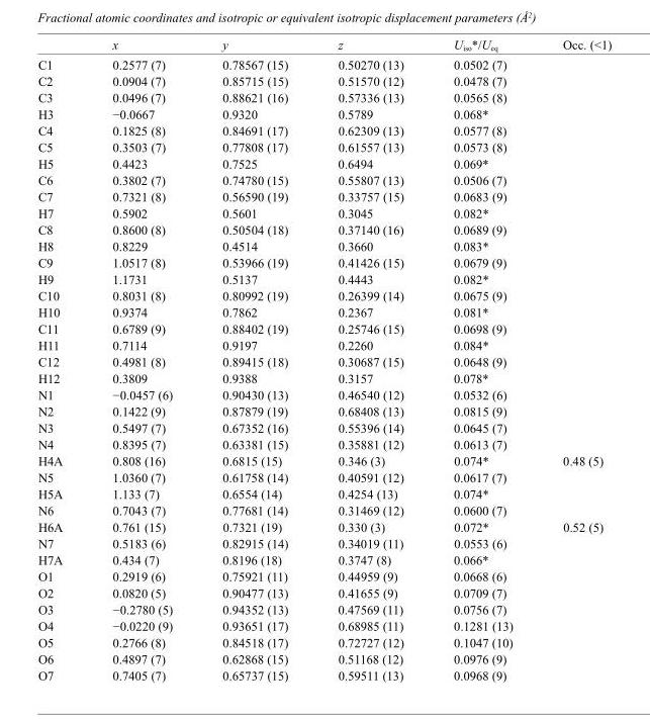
<table><thead><tr><td></td><td>x</td><td>y</td><td>z</td><td>U<sub>iso</sub>*/U<sub>eq</sub></td><td>Occ. (&lt;1)</td></tr></thead><tbody><tr><td>C1</td><td>0.2577 (7)</td><td>0.78567 (15)</td><td>0.50270 (13)</td><td>0.0502 (7)</td><td></td></tr><tr><td>C2</td><td>0.0904 (7)</td><td>0.85715 (15)</td><td>0.51570 (12)</td><td>0.0478 (7)</td><td></td></tr><tr><td>C3</td><td>0.0496 (7)</td><td>0.88621 (16)</td><td>0.57336 (13)</td><td>0.0565 (8)</td><td></td></tr><tr><td>H3</td><td>−0.0667</td><td>0.9320</td><td>0.5789</td><td>0.068*</td><td></td></tr><tr><td>C4</td><td>0.1825 (8)</td><td>0.84691 (17)</td><td>0.62309 (13)</td><td>0.0577 (8)</td><td></td></tr><tr><td>C5</td><td>0.3503 (7)</td><td>0.77808 (17)</td><td>0.61557 (13)</td><td>0.0573 (8)</td><td></td></tr><tr><td>H5</td><td>0.4423</td><td>0.7525</td><td>0.6494</td><td>0.069*</td><td></td></tr><tr><td>C6</td><td>0.3802 (7)</td><td>0.74780 (15)</td><td>0.55807 (13)</td><td>0.0506 (7)</td><td></td></tr><tr><td>C7</td><td>0.7321 (8)</td><td>0.56590 (19)</td><td>0.33757 (15)</td><td>0.0683 (9)</td><td></td></tr><tr><td>H7</td><td>0.5902</td><td>0.5601</td><td>0.3045</td><td>0.082*</td><td></td></tr><tr><td>C8</td><td>0.8600 (8)</td><td>0.50504 (18)</td><td>0.37140 (16)</td><td>0.0689 (9)</td><td></td></tr><tr><td>H8</td><td>0.8229</td><td>0.4514</td><td>0.3660</td><td>0.083*</td><td></td></tr><tr><td>C9</td><td>1.0517 (8)</td><td>0.53966 (19)</td><td>0.41426 (15)</td><td>0.0679 (9)</td><td></td></tr><tr><td>H9</td><td>1.1731</td><td>0.5137</td><td>0.4443</td><td>0.082*</td><td></td></tr><tr><td>C10</td><td>0.8031 (8)</td><td>0.80992 (19)</td><td>0.26399 (14)</td><td>0.0675 (9)</td><td></td></tr><tr><td>H10</td><td>0.9374</td><td>0.7862</td><td>0.2367</td><td>0.081*</td><td></td></tr><tr><td>C11</td><td>0.6789 (9)</td><td>0.88402 (19)</td><td>0.25746 (15)</td><td>0.0698 (9)</td><td></td></tr><tr><td>H11</td><td>0.7114</td><td>0.9197</td><td>0.2260</td><td>0.084*</td><td></td></tr><tr><td>C12</td><td>0.4981 (8)</td><td>0.89415 (18)</td><td>0.30687 (15)</td><td>0.0648 (9)</td><td></td></tr><tr><td>H12</td><td>0.3809</td><td>0.9388</td><td>0.3157</td><td>0.078*</td><td></td></tr><tr><td>N1</td><td>−0.0457 (6)</td><td>0.90430 (13)</td><td>0.46540 (12)</td><td>0.0532 (6)</td><td></td></tr><tr><td>N2</td><td>0.1422 (9)</td><td>0.87879 (19)</td><td>0.68408 (13)</td><td>0.0815 (9)</td><td></td></tr><tr><td>N3</td><td>0.5497 (7)</td><td>0.67352 (16)</td><td>0.55396 (14)</td><td>0.0645 (7)</td><td></td></tr><tr><td>N4</td><td>0.8395 (7)</td><td>0.63381 (15)</td><td>0.35881 (12)</td><td>0.0613 (7)</td><td></td></tr><tr><td>H4A</td><td>0.808 (16)</td><td>0.6815 (15)</td><td>0.346 (3)</td><td>0.074*</td><td>0.48 (5)</td></tr><tr><td>N5</td><td>1.0360 (7)</td><td>0.61758 (14)</td><td>0.40591 (12)</td><td>0.0617 (7)</td><td></td></tr><tr><td>H5A</td><td>1.133 (7)</td><td>0.6554 (14)</td><td>0.4254 (13)</td><td>0.074*</td><td></td></tr><tr><td>N6</td><td>0.7043 (7)</td><td>0.77681 (14)</td><td>0.31469 (12)</td><td>0.0600 (7)</td><td></td></tr><tr><td>H6A</td><td>0.761 (15)</td><td>0.7321 (19)</td><td>0.330 (3)</td><td>0.072*</td><td>0.52 (5)</td></tr><tr><td>N7</td><td>0.5183 (6)</td><td>0.82915 (14)</td><td>0.34019 (11)</td><td>0.0553 (6)</td><td></td></tr><tr><td>H7A</td><td>0.434 (7)</td><td>0.8196 (18)</td><td>0.3747 (8)</td><td>0.066*</td><td></td></tr><tr><td>O1</td><td>0.2919 (6)</td><td>0.75921 (11)</td><td>0.44959 (9)</td><td>0.0668 (6)</td><td></td></tr><tr><td>O2</td><td>0.0820 (5)</td><td>0.90477 (13)</td><td>0.41655 (9)</td><td>0.0709 (7)</td><td></td></tr><tr><td>O3</td><td>−0.2780 (5)</td><td>0.94352 (13)</td><td>0.47569 (11)</td><td>0.0756 (7)</td><td></td></tr><tr><td>O4</td><td>−0.0220 (9)</td><td>0.93651 (17)</td><td>0.68985 (11)</td><td>0.1281 (13)</td><td></td></tr><tr><td>O5</td><td>0.2766 (8)</td><td>0.84518 (17)</td><td>0.72727 (12)</td><td>0.1047 (10)</td><td></td></tr><tr><td>O6</td><td>0.4897 (7)</td><td>0.62868 (15)</td><td>0.51168 (12)</td><td>0.0976 (9)</td><td></td></tr><tr><td>O7</td><td>0.7405 (7)</td><td>0.65737 (15)</td><td>0.59511 (13)</td><td>0.0968 (9)</td><td></td></tr></tbody></table>